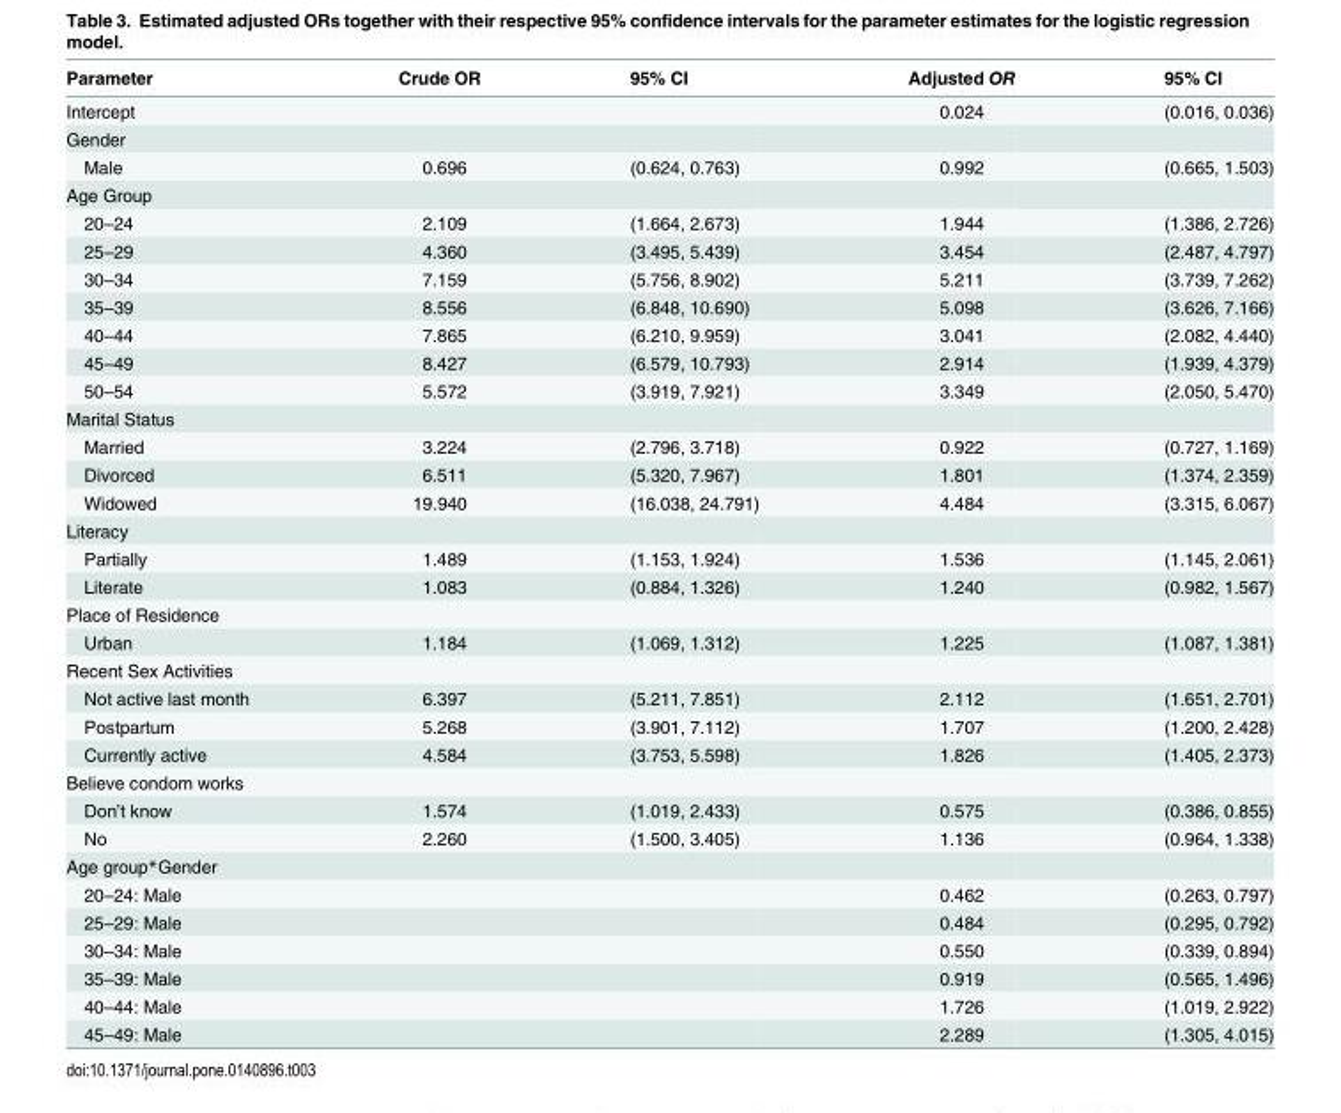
<table><thead><tr><td>Parameter</td><td>Crude OR</td><td>95% CI</td><td>Adjusted OR</td><td>95% CI</td></tr></thead><tbody><tr><td>Intercept</td><td></td><td></td><td>0.024</td><td>(0.016, 0.036)</td></tr><tr><td colspan="5">Gender</td></tr><tr><td>Male</td><td>0.696</td><td>(0.624, 0.763)</td><td>0.992</td><td>(0.665, 1.503)</td></tr><tr><td colspan="5">Age Group</td></tr><tr><td>20–24</td><td>2.109</td><td>(1.664, 2.673)</td><td>1.944</td><td>(1.386, 2.726)</td></tr><tr><td>25–29</td><td>4.360</td><td>(3.495, 5.439)</td><td>3.454</td><td>(2.487, 4.797)</td></tr><tr><td>30–34</td><td>7.159</td><td>(5.756, 8.902)</td><td>5.211</td><td>(3.739, 7.262)</td></tr><tr><td>35–39</td><td>8.556</td><td>(6.848, 10.690)</td><td>5.098</td><td>(3.626, 7.166)</td></tr><tr><td>40–44</td><td>7.865</td><td>(6.210, 9.959)</td><td>3.041</td><td>(2.082, 4.440)</td></tr><tr><td>45–49</td><td>8.427</td><td>(6.579, 10.793)</td><td>2.914</td><td>(1.939, 4.379)</td></tr><tr><td>50–54</td><td>5.572</td><td>(3.919, 7.921)</td><td>3.349</td><td>(2.050, 5.470)</td></tr><tr><td colspan="5">Marital Status</td></tr><tr><td>Married</td><td>3.224</td><td>(2.796, 3.718)</td><td>0.922</td><td>(0.727, 1.169)</td></tr><tr><td>Divorced</td><td>6.511</td><td>(5.320, 7.967)</td><td>1.801</td><td>(1.374, 2.359)</td></tr><tr><td>Widowed</td><td>19.940</td><td>(16.038, 24.791)</td><td>4.484</td><td>(3.315, 6.067)</td></tr><tr><td colspan="5">Literacy</td></tr><tr><td>Partially</td><td>1.489</td><td>(1.153, 1.924)</td><td>1.536</td><td>(1.145, 2.061)</td></tr><tr><td>Literate</td><td>1.083</td><td>(0.884, 1.326)</td><td>1.240</td><td>(0.982, 1.567)</td></tr><tr><td colspan="5">Place of Residence</td></tr><tr><td>Urban</td><td>1.184</td><td>(1.069, 1.312)</td><td>1.225</td><td>(1.087, 1.381)</td></tr><tr><td colspan="5">Recent Sex Activities</td></tr><tr><td>Not active last month</td><td>6.397</td><td>(5.211, 7.851)</td><td>2.112</td><td>(1.651, 2.701)</td></tr><tr><td>Postpartum</td><td>5.268</td><td>(3.901, 7.112)</td><td>1.707</td><td>(1.200, 2.428)</td></tr><tr><td>Currently active</td><td>4.584</td><td>(3.753, 5.598)</td><td>1.826</td><td>(1.405, 2.373)</td></tr><tr><td colspan="5">Believe condom works</td></tr><tr><td>Don’t know</td><td>1.574</td><td>(1.019, 2.433)</td><td>0.575</td><td>(0.386, 0.855)</td></tr><tr><td>No</td><td>2.260</td><td>(1.500, 3.405)</td><td>1.136</td><td>(0.964, 1.338)</td></tr><tr><td colspan="5">Age group*Gender</td></tr><tr><td>20–24: Male</td><td></td><td></td><td>0.462</td><td>(0.263, 0.797)</td></tr><tr><td>25–29: Male</td><td></td><td></td><td>0.484</td><td>(0.295, 0.792)</td></tr><tr><td>30–34: Male</td><td></td><td></td><td>0.550</td><td>(0.339, 0.894)</td></tr><tr><td>35–39: Male</td><td></td><td></td><td>0.919</td><td>(0.565, 1.496)</td></tr><tr><td>40–44: Male</td><td></td><td></td><td>1.726</td><td>(1.019, 2.922)</td></tr><tr><td>45–49: Male</td><td></td><td></td><td>2.289</td><td>(1.305, 4.015)</td></tr></tbody></table>